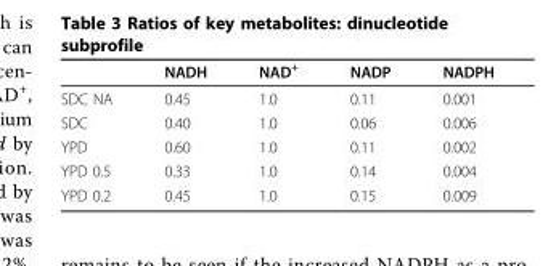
<table><thead><tr><td></td><td>NADH</td><td>NAD<sup>+</sup></td><td>NADP</td><td>NADPH</td></tr></thead><tbody><tr><td>SDC NA</td><td>0.45</td><td>1.0</td><td>0.11</td><td>0.001</td></tr><tr><td>SDC</td><td>0.40</td><td>1.0</td><td>0.06</td><td>0.006</td></tr><tr><td>YPD</td><td>0.60</td><td>1.0</td><td>0.11</td><td>0.002</td></tr><tr><td>YPD 0.5</td><td>0.33</td><td>1.0</td><td>0.14</td><td>0.004</td></tr><tr><td>YPD 0.2</td><td>0.45</td><td>1.0</td><td>0.15</td><td>0.009</td></tr></tbody></table>